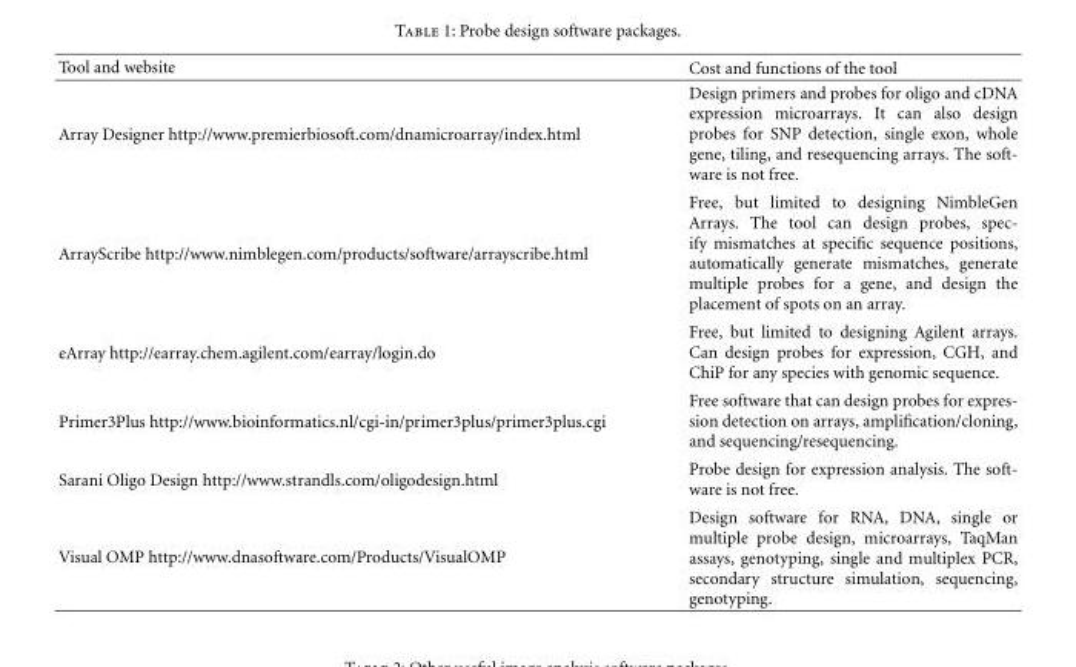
<table><thead><tr><td>Tool and website</td><td>Cost and functions of the tool</td></tr></thead><tbody><tr><td>Array Designer http://www.premierbiosoft.com/dnamicroarray/index.html</td><td>Design primers and probes for oligo and cDNA expression microarrays. It can also design probes for SNP detection, single exon, whole gene, tiling, and resequencing arrays. The soft- ware is not free.</td></tr><tr><td>ArrayScribe http://www.nimblegen.com/products/software/arrayscribe.html</td><td>Free, but limited to designing NimbleGen Arrays. The tool can design probes, spec- ify mismatches at specific sequence positions, automatically generate mismatches, generate multiple probes for a gene, and design the placement of spots on an array.</td></tr><tr><td>eArray http://earray.chem.agilent.com/earray/login.do</td><td>Free, but limited to designing Agilent arrays. Can design probes for expression, CGH, and ChiP for any species with genomic sequence.</td></tr><tr><td>Primer3Plus http://www.bioinformatics.nl/cgi-in/primer3plus/primer3plus.cgi</td><td>Free software that can design probes for expres- sion detection on arrays, amplification/cloning, and sequencing/resequencing.</td></tr><tr><td>Sarani Oligo Design http://www.strandls.com/oligodesign.html</td><td>Probe design for expression analysis. The soft- ware is not free.</td></tr><tr><td>Visual OMP http://www.dnasoftware.com/Products/VisualOMP</td><td>Design software for RNA, DNA, single or multiple probe design, microarrays, TaqMan assays, genotyping, single and multiplex PCR, secondary structure simulation, sequencing, genotyping.</td></tr></tbody></table>